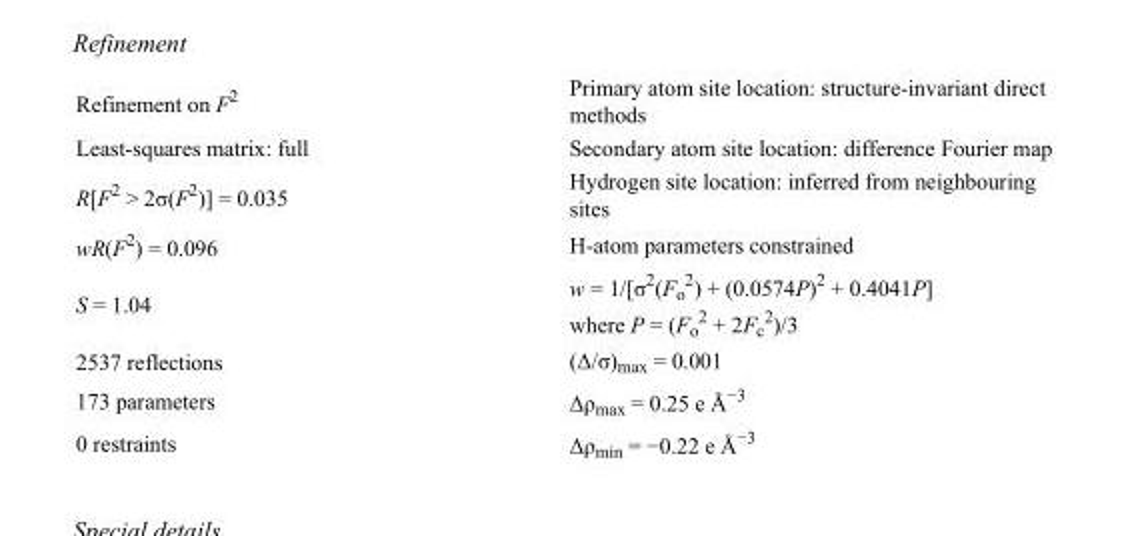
<table><tbody><tr><td>Refinement on F<sup>2</sup></td><td>Primary atom site location: structure-invariant direct methods</td></tr><tr><td>Least-squares matrix: full</td><td>Secondary atom site location: difference Fourier map</td></tr><tr><td>R[F<sup>2</sup> &gt; 2σ(F<sup>2</sup>)] = 0.035</td><td>Hydrogen site location: inferred from neighbouring sites</td></tr><tr><td>wR(F<sup>2</sup>) = 0.096</td><td>H-atom parameters constrained</td></tr><tr><td>S = 1.04</td><td>w = 1/[σ<sup>2</sup>(F<sub>o</sub> <sup>2</sup>) + (0.0574P)<sup>2</sup> + 0.4041P] where P = (F<sub>o</sub> <sup>2</sup> + 2F<sub>c</sub> <sup>2</sup>)/3</td></tr><tr><td>2537 reflections</td><td>(Δ/σ)<sub>max</sub> = 0.001</td></tr><tr><td>173 parameters</td><td>Δρ<sub>max</sub> = 0.25 e Å<sup>−3</sup></td></tr><tr><td>0 restraints</td><td>Δρ<sub>min</sub> = −0.22 e Å<sup>−3</sup></td></tr></tbody></table>